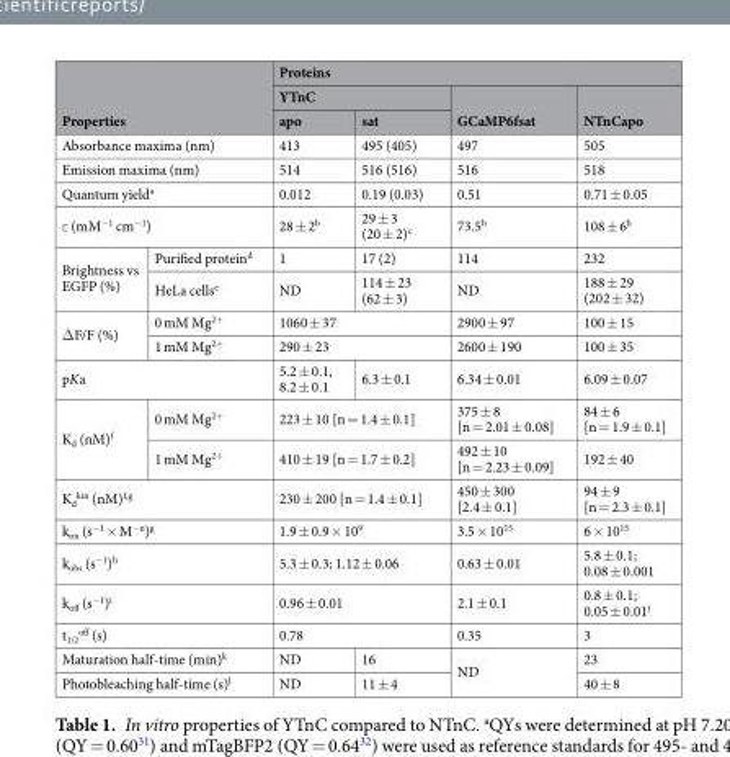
<table><thead><tr><td rowspan="3" colspan="2">Properties</td><td colspan="4">Proteins</td></tr><tr><td colspan="2">YTnC</td><td rowspan="2">GCaMP6fsat</td><td rowspan="2">NTnCapo</td></tr><tr><td>apo</td><td>sat</td></tr></thead><tbody><tr><td colspan="2">Absorbance maxima (nm)</td><td>413</td><td>495 (405)</td><td>497</td><td>505</td></tr><tr><td colspan="2">Emission maxima (nm)</td><td>514</td><td>516 (516)</td><td>516</td><td>518</td></tr><tr><td colspan="2">Quantum yield<sup>a</sup></td><td>0.012</td><td>0.19 (0.03)</td><td>0.51</td><td>0.71 ± 0.05</td></tr><tr><td colspan="2">ε (mM<sup>−1</sup> cm<sup>−1</sup>)</td><td>28 ± 2<sup>b</sup></td><td>29 ± 3 (20 ± 2)<sup>c</sup></td><td>73.5<sup>b</sup></td><td>108 ± 6<sup>b</sup></td></tr><tr><td rowspan="2">Brightness vs EGFP (%)</td><td>Purified protein<sup>d</sup></td><td>1</td><td>17 (2)</td><td>114</td><td>232</td></tr><tr><td>HeLa cells<sup>e</sup></td><td>ND</td><td>114 ± 23 (62 ± 3)</td><td>ND</td><td>188 ± 29 (202 ± 32)</td></tr><tr><td rowspan="2">ΔF/F (%)</td><td>0 mM Mg<sup>2+</sup></td><td colspan="2">1060 ± 37</td><td>2900 ± 97</td><td>100 ± 15</td></tr><tr><td>1 mM Mg<sup>2+</sup></td><td colspan="2">290 ± 23</td><td>2600 ± 190</td><td>100 ± 35</td></tr><tr><td colspan="2">pKa</td><td>5.2 ± 0.1, 8.2 ± 0.1</td><td>6.3 ± 0.1</td><td>6.34 ± 0.01</td><td>6.09 ± 0.07</td></tr><tr><td rowspan="2">K<sub>d</sub> (nM)<sup>f</sup></td><td>0 mM Mg<sup>2+</sup></td><td colspan="2">223 ± 10 [n = 1.4 ± 0.1]</td><td>375 ± 8 [n = 2.01 ± 0.08]</td><td>84 ± 6 [n = 1.9 ± 0.1]</td></tr><tr><td>1 mM Mg<sup>2+</sup></td><td colspan="2">410 ± 19 [n = 1.7 ± 0.2]</td><td>492 ± 10 [n = 2.23 ± 0.09]</td><td>192 ± 40</td></tr><tr><td colspan="2">K<sub>d</sub> <sup>kin</sup> (nM)<sup>f,g</sup></td><td colspan="2">230 ± 200 [n = 1.4 ± 0.1]</td><td>450 ± 300 [2.4 ± 0.1]</td><td>94 ± 9 [n = 2.3 ± 0.1]</td></tr><tr><td colspan="2">k<sub>on</sub> (s<sup>−1</sup> × M<sup>−n</sup>)<sup>g</sup></td><td colspan="2">1.9 ± 0.9 × 10<sup>9</sup></td><td>3.5 × 10<sup>15</sup></td><td>6 × 10<sup>15</sup></td></tr><tr><td colspan="2">k<sub>obs</sub> (s<sup>−1</sup>)<sup>h</sup></td><td colspan="2">5.3 ± 0.3; 1.12 ± 0.06</td><td>0.63 ± 0.01</td><td>5.8 ± 0.1; 0.08 ± 0.001</td></tr><tr><td colspan="2">k<sub>off</sub> (s<sup>−1</sup>)<sup>i</sup></td><td colspan="2">0.96 ± 0.01</td><td>2.1 ± 0.1</td><td>0.8 ± 0.1; 0.05 ± 0.01<sup>j</sup></td></tr><tr><td colspan="2">t<sub>1/2</sub> <sup>off</sup> (s)</td><td colspan="2">0.78</td><td>0.35</td><td>3</td></tr><tr><td colspan="2">Maturation half-time (min)<sup>k</sup></td><td>ND</td><td>16</td><td rowspan="2">ND</td><td>23</td></tr><tr><td colspan="2">Photobleaching half-time (s)<sup>l</sup></td><td>ND</td><td>11 ± 4</td><td>40 ± 8</td></tr></tbody></table>